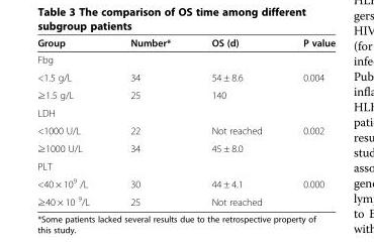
<table><thead><tr><td>Group</td><td>Number*</td><td>OS (d)</td><td>P value</td></tr></thead><tbody><tr><td colspan="4">Fbg</td></tr><tr><td>&lt;1.5 g/L</td><td>34</td><td>54 ± 8.6</td><td rowspan="2">0.004</td></tr><tr><td>≥1.5 g/L</td><td>25</td><td>140</td></tr><tr><td colspan="4">LDH</td></tr><tr><td>&lt;1000 U/L</td><td>22</td><td>Not reached</td><td rowspan="2">0.002</td></tr><tr><td>≥1000 U/L</td><td>34</td><td>45 ± 8.0</td></tr><tr><td colspan="4">PLT</td></tr><tr><td>&lt;40 × 10<sup>9</sup> /L</td><td>30</td><td>44 ± 4.1</td><td rowspan="2">0.000</td></tr><tr><td>≥40 × 10 <sup>9</sup>/L</td><td>25</td><td>Not reached</td></tr></tbody></table>